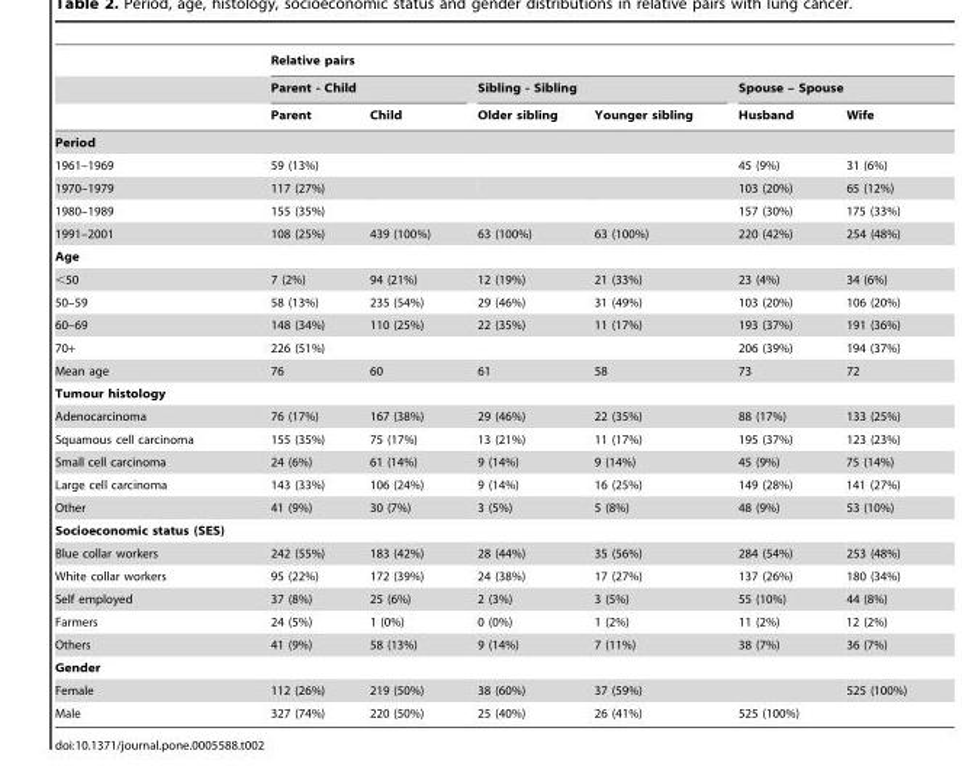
<table><thead><tr><td rowspan="3"></td><td colspan="6">Relative pairs</td></tr><tr><td colspan="2">Parent - Child</td><td colspan="2">Sibling - Sibling</td><td colspan="2">Spouse – Spouse</td></tr><tr><td>Parent</td><td>Child</td><td>Older sibling</td><td>Younger sibling</td><td>Husband</td><td>Wife</td></tr></thead><tbody><tr><td colspan="7">Period</td></tr><tr><td>1961–1969</td><td>59 (13%)</td><td></td><td></td><td></td><td>45 (9%)</td><td>31 (6%)</td></tr><tr><td>1970–1979</td><td>117 (27%)</td><td></td><td></td><td></td><td>103 (20%)</td><td>65 (12%)</td></tr><tr><td>1980–1989</td><td>155 (35%)</td><td></td><td></td><td></td><td>157 (30%)</td><td>175 (33%)</td></tr><tr><td>1991–2001</td><td>108 (25%)</td><td>439 (100%)</td><td>63 (100%)</td><td>63 (100%)</td><td>220 (42%)</td><td>254 (48%)</td></tr><tr><td colspan="7">Age</td></tr><tr><td>&lt;50</td><td>7 (2%)</td><td>94 (21%)</td><td>12 (19%)</td><td>21 (33%)</td><td>23 (4%)</td><td>34 (6%)</td></tr><tr><td>50–59</td><td>58 (13%)</td><td>235 (54%)</td><td>29 (46%)</td><td>31 (49%)</td><td>103 (20%)</td><td>106 (20%)</td></tr><tr><td>60–69</td><td>148 (34%)</td><td>110 (25%)</td><td>22 (35%)</td><td>11 (17%)</td><td>193 (37%)</td><td>191 (36%)</td></tr><tr><td>70+</td><td>226 (51%)</td><td></td><td></td><td></td><td>206 (39%)</td><td>194 (37%)</td></tr><tr><td>Mean age</td><td>76</td><td>60</td><td>61</td><td>58</td><td>73</td><td>72</td></tr><tr><td colspan="7">Tumour histology</td></tr><tr><td>Adenocarcinoma</td><td>76 (17%)</td><td>167 (38%)</td><td>29 (46%)</td><td>22 (35%)</td><td>88 (17%)</td><td>133 (25%)</td></tr><tr><td>Squamous cell carcinoma</td><td>155 (35%)</td><td>75 (17%)</td><td>13 (21%)</td><td>11 (17%)</td><td>195 (37%)</td><td>123 (23%)</td></tr><tr><td>Small cell carcinoma</td><td>24 (6%)</td><td>61 (14%)</td><td>9 (14%)</td><td>9 (14%)</td><td>45 (9%)</td><td>75 (14%)</td></tr><tr><td>Large cell carcinoma</td><td>143 (33%)</td><td>106 (24%)</td><td>9 (14%)</td><td>16 (25%)</td><td>149 (28%)</td><td>141 (27%)</td></tr><tr><td>Other</td><td>41 (9%)</td><td>30 (7%)</td><td>3 (5%)</td><td>5 (8%)</td><td>48 (9%)</td><td>53 (10%)</td></tr><tr><td colspan="7">Socioeconomic status (SES)</td></tr><tr><td>Blue collar workers</td><td>242 (55%)</td><td>183 (42%)</td><td>28 (44%)</td><td>35 (56%)</td><td>284 (54%)</td><td>253 (48%)</td></tr><tr><td>White collar workers</td><td>95 (22%)</td><td>172 (39%)</td><td>24 (38%)</td><td>17 (27%)</td><td>137 (26%)</td><td>180 (34%)</td></tr><tr><td>Self employed</td><td>37 (8%)</td><td>25 (6%)</td><td>2 (3%)</td><td>3 (5%)</td><td>55 (10%)</td><td>44 (8%)</td></tr><tr><td>Farmers</td><td>24 (5%)</td><td>1 (0%)</td><td>0 (0%)</td><td>1 (2%)</td><td>11 (2%)</td><td>12 (2%)</td></tr><tr><td>Others</td><td>41 (9%)</td><td>58 (13%)</td><td>9 (14%)</td><td>7 (11%)</td><td>38 (7%)</td><td>36 (7%)</td></tr><tr><td colspan="7">Gender</td></tr><tr><td>Female</td><td>112 (26%)</td><td>219 (50%)</td><td>38 (60%)</td><td>37 (59%)</td><td></td><td>525 (100%)</td></tr><tr><td>Male</td><td>327 (74%)</td><td>220 (50%)</td><td>25 (40%)</td><td>26 (41%)</td><td>525 (100%)</td><td></td></tr></tbody></table>